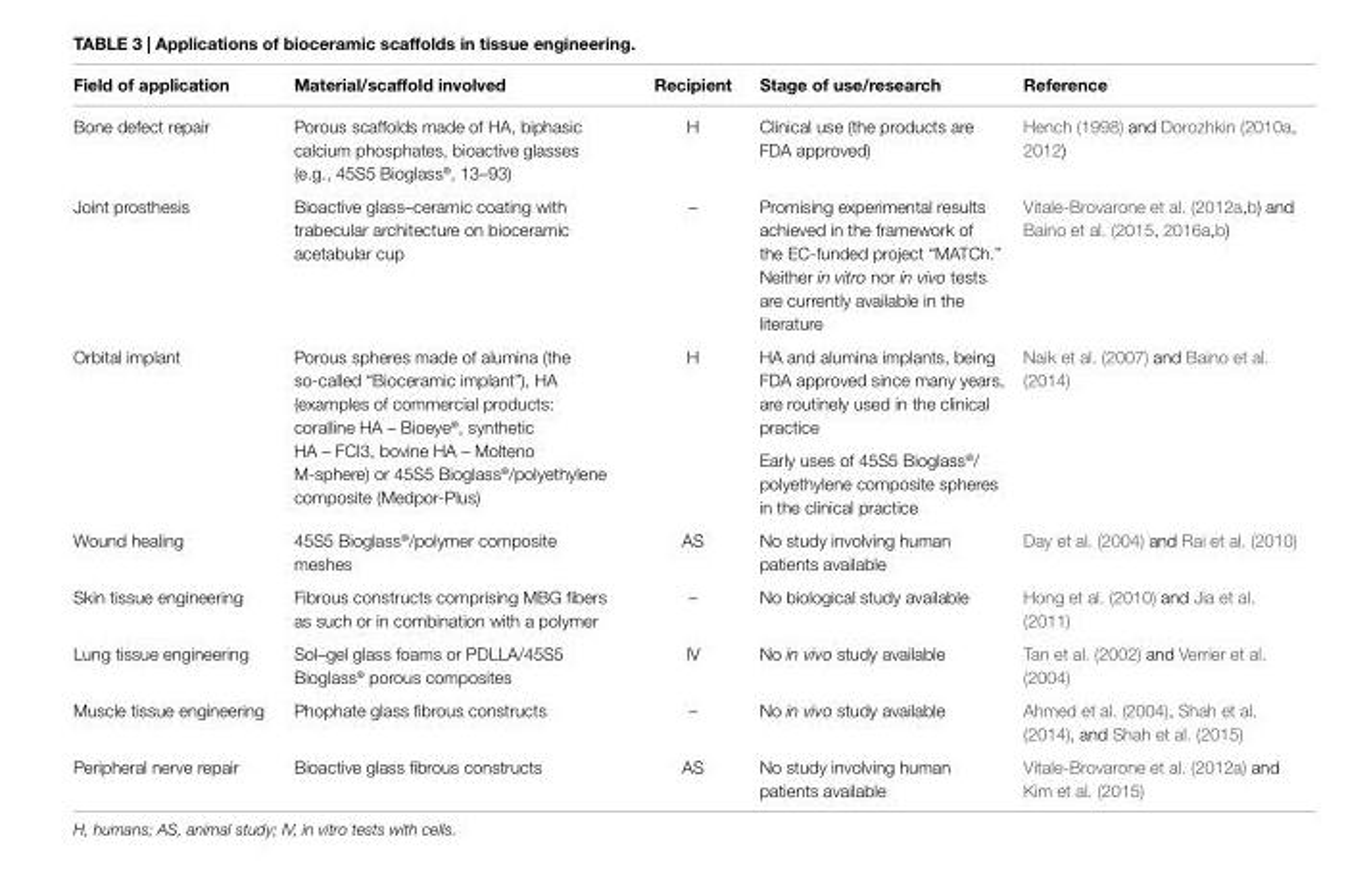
<table><thead><tr><td>Field of application</td><td>Material/scaffold involved</td><td>Recipient</td><td>Stage of use/research</td><td>Reference</td></tr></thead><tbody><tr><td>Bone defect repair</td><td>Porous scaffolds made of HA, biphasic calcium phosphates, bioactive glasses (e.g., 45S5 Bioglass<sup>®</sup>, 13–93)</td><td>H</td><td>Clinical use (the products are FDA approved)</td><td>Hench (1998) and Dorozhkin (2010a, 2012)</td></tr><tr><td>Joint prosthesis</td><td>Bioactive glass–ceramic coating with trabecular architecture on bioceramic acetabular cup</td><td>–</td><td>Promising experimental results achieved in the framework of the EC-funded project “MATCh.” Neither in vitro nor in vivo tests are currently available in the literature</td><td>Vitale-Brovarone et al. (2012a,b) and Baino et al. (2015, 2016a,b)</td></tr><tr><td rowspan="2">Orbital implant</td><td rowspan="2">Porous spheres made of alumina (the so-called “Bioceramic implant”), HA (examples of commercial products: coralline HA – Bioeye<sup>®</sup>, synthetic HA – FCI3, bovine HA – Molteno M-sphere) or 45S5 Bioglass<sup>®</sup>/polyethylene composite (Medpor-Plus)</td><td rowspan="2">H</td><td>HA and alumina implants, being FDA approved since many years, are routinely used in the clinical practice</td><td rowspan="2">Naik et al. (2007) and Baino et al. (2014)</td></tr><tr><td>Early uses of 45S5 Bioglass<sup>®</sup>/ polyethylene composite spheres in the clinical practice</td></tr><tr><td>Wound healing</td><td>45S5 Bioglass<sup>®</sup>/polymer composite meshes</td><td>AS</td><td>No study involving human patients available</td><td>Day et al. (2004) and Rai et al. (2010)</td></tr><tr><td>Skin tissue engineering</td><td>Fibrous constructs comprising MBG fibers as such or in combination with a polymer</td><td>–</td><td>No biological study available</td><td>Hong et al. (2010) and Jia et al. (2011)</td></tr><tr><td>Lung tissue engineering</td><td>Sol–gel glass foams or PDLLA/45S5 Bioglass<sup>®</sup> porous composites</td><td>IV</td><td>No in vivo study available</td><td>Tan et al. (2002) and Verrier et al. (2004)</td></tr><tr><td>Muscle tissue engineering</td><td>Phophate glass fibrous constructs</td><td>–</td><td>No in vivo study available</td><td>Ahmed et al. (2004), Shah et al. (2014), and Shah et al. (2015)</td></tr><tr><td>Peripheral nerve repair</td><td>Bioactive glass fibrous constructs</td><td>AS</td><td>No study involving human patients available</td><td>Vitale-Brovarone et al. (2012a) and Kim et al. (2015)</td></tr></tbody></table>